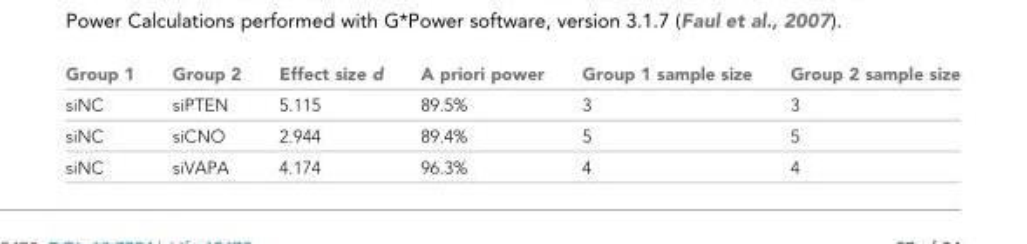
<table><thead><tr><td>Group 1</td><td>Group 2</td><td>Effect size d</td><td>A priori power</td><td>Group 1 sample size</td><td>Group 2 sample size</td></tr></thead><tbody><tr><td>siNC</td><td>siPTEN</td><td>5.115</td><td>89.5%</td><td>3</td><td>3</td></tr><tr><td>siNC</td><td>siCNO</td><td>2.944</td><td>89.4%</td><td>5</td><td>5</td></tr><tr><td>siNC</td><td>siVAPA</td><td>4.174</td><td>96.3%</td><td>4</td><td>4</td></tr></tbody></table>